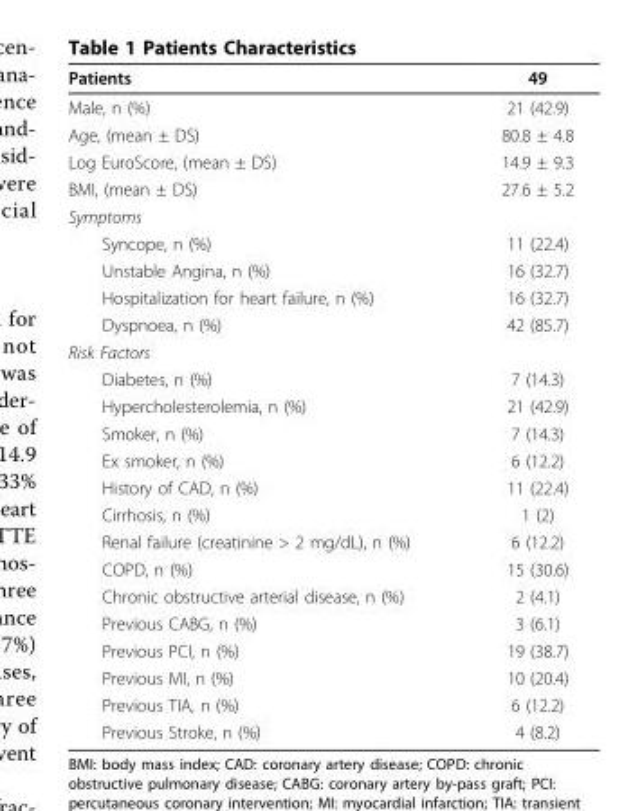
<table><thead><tr><td>Patients</td><td>49</td></tr></thead><tbody><tr><td>Male, n (%)</td><td>21 (42.9)</td></tr><tr><td>Age, (mean ± DS)</td><td>80.8 ± 4.8</td></tr><tr><td>Log EuroScore, (mean ± DS)</td><td>14.9 ± 9.3</td></tr><tr><td>BMI, (mean ± DS)</td><td>27.6 ± 5.2</td></tr><tr><td colspan="2">Symptoms</td></tr><tr><td>Syncope, n (%)</td><td>11 (22.4)</td></tr><tr><td>Unstable Angina, n (%)</td><td>16 (32.7)</td></tr><tr><td>Hospitalization for heart failure, n (%)</td><td>16 (32.7)</td></tr><tr><td>Dyspnoea, n (%)</td><td>42 (85.7)</td></tr><tr><td colspan="2">Risk Factors</td></tr><tr><td>Diabetes, n (%)</td><td>7 (14.3)</td></tr><tr><td>Hypercholesterolemia, n (%)</td><td>21 (42.9)</td></tr><tr><td>Smoker, n (%)</td><td>7 (14.3)</td></tr><tr><td>Ex smoker, n (%)</td><td>6 (12.2)</td></tr><tr><td>History of CAD, n (%)</td><td>11 (22.4)</td></tr><tr><td>Cirrhosis, n (%)</td><td>1 (2)</td></tr><tr><td>Renal failure (creatinine &gt; 2 mg/dL), n (%)</td><td>6 (12.2)</td></tr><tr><td>COPD, n (%)</td><td>15 (30.6)</td></tr><tr><td>Chronic obstructive arterial disease, n (%)</td><td>2 (4.1)</td></tr><tr><td>Previous CABG, n (%)</td><td>3 (6.1)</td></tr><tr><td>Previous PCI, n (%)</td><td>19 (38.7)</td></tr><tr><td>Previous MI, n (%)</td><td>10 (20.4)</td></tr><tr><td>Previous TIA, n (%)</td><td>6 (12.2)</td></tr><tr><td>Previous Stroke, n (%)</td><td>4 (8.2)</td></tr></tbody></table>